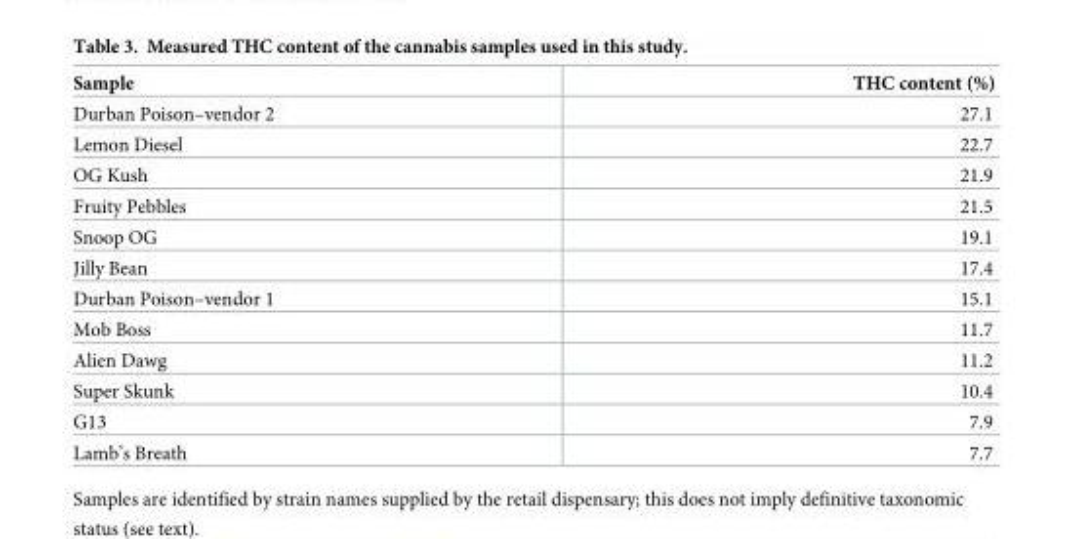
<table><thead><tr><td>Sample</td><td>THC content (%)</td></tr></thead><tbody><tr><td>Durban Poison–vendor 2</td><td>27.1</td></tr><tr><td>Lemon Diesel</td><td>22.7</td></tr><tr><td>OG Kush</td><td>21.9</td></tr><tr><td>Fruity Pebbles</td><td>21.5</td></tr><tr><td>Snoop OG</td><td>19.1</td></tr><tr><td>Jilly Bean</td><td>17.4</td></tr><tr><td>Durban Poison–vendor 1</td><td>15.1</td></tr><tr><td>Mob Boss</td><td>11.7</td></tr><tr><td>Alien Dawg</td><td>11.2</td></tr><tr><td>Super Skunk</td><td>10.4</td></tr><tr><td>G13</td><td>7.9</td></tr><tr><td>Lamb’s Breath</td><td>7.7</td></tr></tbody></table>